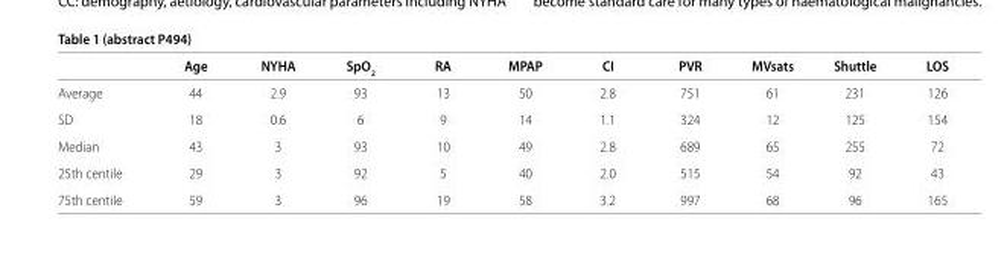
<table><thead><tr><td></td><td>Age</td><td>NYHA</td><td>SpO<sub>2</sub></td><td>RA</td><td>MPAP</td><td>CI</td><td>PVR</td><td>MVsats</td><td>Shuttle</td><td>LOS</td></tr></thead><tbody><tr><td>Average</td><td>44</td><td>2.9</td><td>93</td><td>13</td><td>50</td><td>2.8</td><td>751</td><td>61</td><td>231</td><td>126</td></tr><tr><td>SD</td><td>18</td><td>0.6</td><td>6</td><td>9</td><td>14</td><td>1.1</td><td>324</td><td>12</td><td>125</td><td>154</td></tr><tr><td>Median</td><td>43</td><td>3</td><td>93</td><td>10</td><td>49</td><td>2.8</td><td>689</td><td>65</td><td>255</td><td>72</td></tr><tr><td>25th centile</td><td>29</td><td>3</td><td>92</td><td>5</td><td>40</td><td>2.0</td><td>515</td><td>54</td><td>92</td><td>43</td></tr><tr><td>75th centile</td><td>59</td><td>3</td><td>96</td><td>19</td><td>58</td><td>3.2</td><td>997</td><td>68</td><td>96</td><td>165</td></tr></tbody></table>